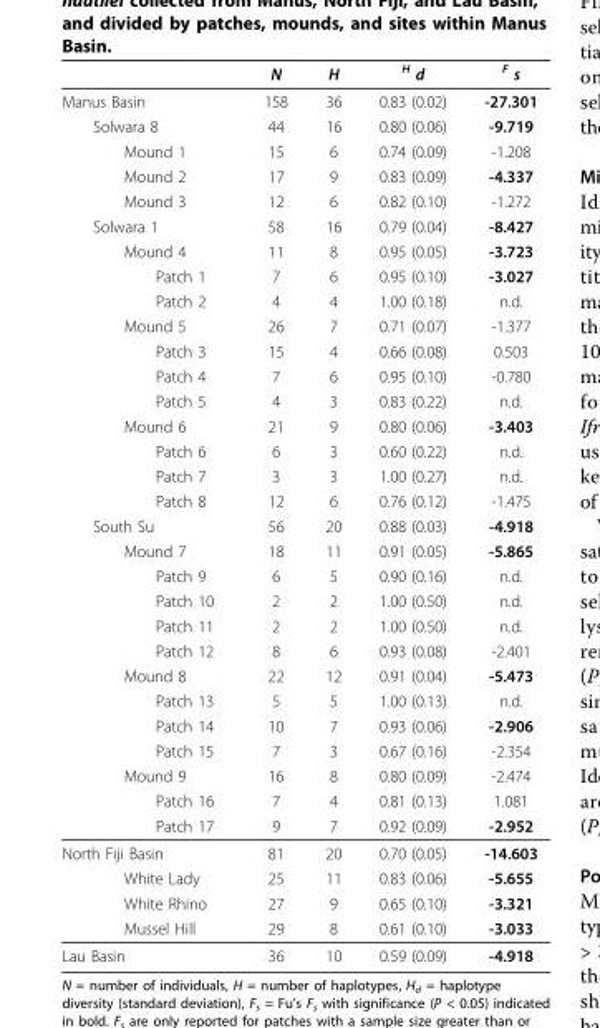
<table><thead><tr><td></td><td>N</td><td>H</td><td><sup>H</sup> d</td><td><sup>F</sup> s</td></tr></thead><tbody><tr><td>Manus Basin</td><td>158</td><td>36</td><td>0.83 (0.02)</td><td>-27.301</td></tr><tr><td>Solwara 8</td><td>44</td><td>16</td><td>0.80 (0.06)</td><td>-9.719</td></tr><tr><td>Mound 1</td><td>15</td><td>6</td><td>0.74 (0.09)</td><td>-1.208</td></tr><tr><td>Mound 2</td><td>17</td><td>9</td><td>0.83 (0.09)</td><td>-4.337</td></tr><tr><td>Mound 3</td><td>12</td><td>6</td><td>0.82 (0.10)</td><td>-1.272</td></tr><tr><td>Solwara 1</td><td>58</td><td>16</td><td>0.79 (0.04)</td><td>-8.427</td></tr><tr><td>Mound 4</td><td>11</td><td>8</td><td>0.95 (0.05)</td><td>-3.723</td></tr><tr><td>Patch 1</td><td>7</td><td>6</td><td>0.95 (0.10)</td><td>-3.027</td></tr><tr><td>Patch 2</td><td>4</td><td>4</td><td>1.00 (0.18)</td><td>n.d.</td></tr><tr><td>Mound 5</td><td>26</td><td>7</td><td>0.71 (0.07)</td><td>-1.377</td></tr><tr><td>Patch 3</td><td>15</td><td>4</td><td>0.66 (0.08)</td><td>0.503</td></tr><tr><td>Patch 4</td><td>7</td><td>6</td><td>0.95 (0.10)</td><td>-0.780</td></tr><tr><td>Patch 5</td><td>4</td><td>3</td><td>0.83 (0.22)</td><td>n.d.</td></tr><tr><td>Mound 6</td><td>21</td><td>9</td><td>0.80 (0.06)</td><td>-3.403</td></tr><tr><td>Patch 6</td><td>6</td><td>3</td><td>0.60 (0.22)</td><td>n.d.</td></tr><tr><td>Patch 7</td><td>3</td><td>3</td><td>1.00 (0.27)</td><td>n.d.</td></tr><tr><td>Patch 8</td><td>12</td><td>6</td><td>0.76 (0.12)</td><td>-1.475</td></tr><tr><td>South Su</td><td>56</td><td>20</td><td>0.88 (0.03)</td><td>-4.918</td></tr><tr><td>Mound 7</td><td>18</td><td>11</td><td>0.91 (0.05)</td><td>-5.865</td></tr><tr><td>Patch 9</td><td>6</td><td>5</td><td>0.90 (0.16)</td><td>n.d.</td></tr><tr><td>Patch 10</td><td>2</td><td>2</td><td>1.00 (0.50)</td><td>n.d.</td></tr><tr><td>Patch 11</td><td>2</td><td>2</td><td>1.00 (0.50)</td><td>n.d.</td></tr><tr><td>Patch 12</td><td>8</td><td>6</td><td>0.93 (0.08)</td><td>-2.401</td></tr><tr><td>Mound 8</td><td>22</td><td>12</td><td>0.91 (0.04)</td><td>-5.473</td></tr><tr><td>Patch 13</td><td>5</td><td>5</td><td>1.00 (0.13)</td><td>n.d.</td></tr><tr><td>Patch 14</td><td>10</td><td>7</td><td>0.93 (0.06)</td><td>-2.906</td></tr><tr><td>Patch 15</td><td>7</td><td>3</td><td>0.67 (0.16)</td><td>-2.354</td></tr><tr><td>Mound 9</td><td>16</td><td>8</td><td>0.80 (0.09)</td><td>-2.474</td></tr><tr><td>Patch 16</td><td>7</td><td>4</td><td>0.81 (0.13)</td><td>1.081</td></tr><tr><td>Patch 17</td><td>9</td><td>7</td><td>0.92 (0.09)</td><td>-2.952</td></tr><tr><td>North Fiji Basin</td><td>81</td><td>20</td><td>0.70 (0.05)</td><td>-14.603</td></tr><tr><td>White Lady</td><td>25</td><td>11</td><td>0.83 (0.06)</td><td>-5.655</td></tr><tr><td>White Rhino</td><td>27</td><td>9</td><td>0.65 (0.10)</td><td>-3.321</td></tr><tr><td>Mussel Hill</td><td>29</td><td>8</td><td>0.61 (0.10)</td><td>-3.033</td></tr><tr><td>Lau Basin</td><td>36</td><td>10</td><td>0.59 (0.09)</td><td>-4.918</td></tr></tbody></table>